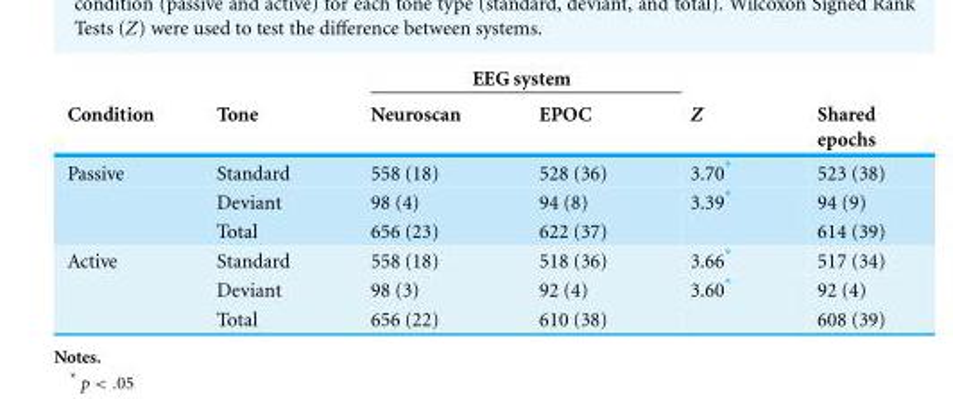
<table><thead><tr><td rowspan="2">Condition</td><td rowspan="2">Tone</td><td colspan="2">EEG system</td><td rowspan="2">Z</td><td rowspan="2">Shared epochs</td></tr><tr><td>Neuroscan</td><td>EPOC</td></tr></thead><tbody><tr><td rowspan="3">Passive</td><td>Standard</td><td>558 (18)</td><td>528 (36)</td><td>3.70*</td><td>523 (38)</td></tr><tr><td>Deviant</td><td>98 (4)</td><td>94 (8)</td><td>3.39*</td><td>94 (9)</td></tr><tr><td>Total</td><td>656 (23)</td><td>622 (37)</td><td></td><td>614 (39)</td></tr><tr><td rowspan="3">Active</td><td>Standard</td><td>558 (18)</td><td>518 (36)</td><td>3.66*</td><td>517 (34)</td></tr><tr><td>Deviant</td><td>98 (3)</td><td>92 (4)</td><td>3.60*</td><td>92 (4)</td></tr><tr><td>Total</td><td>656 (22)</td><td>610 (38)</td><td></td><td>608 (39)</td></tr></tbody></table>